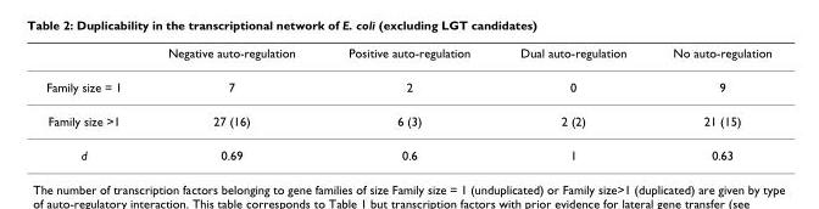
<table><thead><tr><td></td><td>Negative auto-regulation</td><td>Positive auto-regulation</td><td>Dual auto-regulation</td><td>No auto-regulation</td></tr></thead><tbody><tr><td>Family size = 1</td><td>7</td><td>2</td><td>0</td><td>9</td></tr><tr><td>Family size &gt;1</td><td>27 (16)</td><td>6 (3)</td><td>2 (2)</td><td>21 (15)</td></tr><tr><td>d</td><td>0.69</td><td>0.6</td><td>1</td><td>0.63</td></tr></tbody></table>